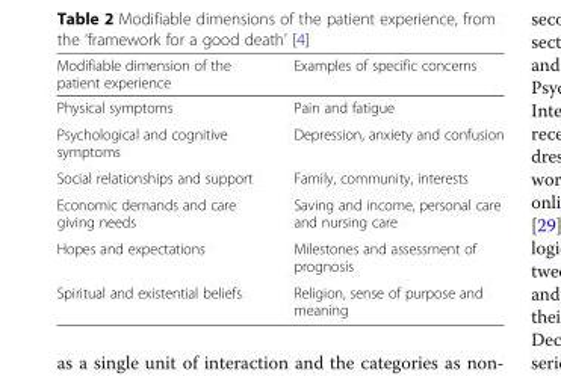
<table><thead><tr><td>Modifiable dimension of the patient experience</td><td>Examples of specific concerns</td></tr></thead><tbody><tr><td>Physical symptoms</td><td>Pain and fatigue</td></tr><tr><td>Psychological and cognitive symptoms</td><td>Depression, anxiety and confusion</td></tr><tr><td>Social relationships and support</td><td>Family, community, interests</td></tr><tr><td>Economic demands and care giving needs</td><td>Saving and income, personal care and nursing care</td></tr><tr><td>Hopes and expectations</td><td>Milestones and assessment of prognosis</td></tr><tr><td>Spiritual and existential beliefs</td><td>Religion, sense of purpose and meaning</td></tr></tbody></table>